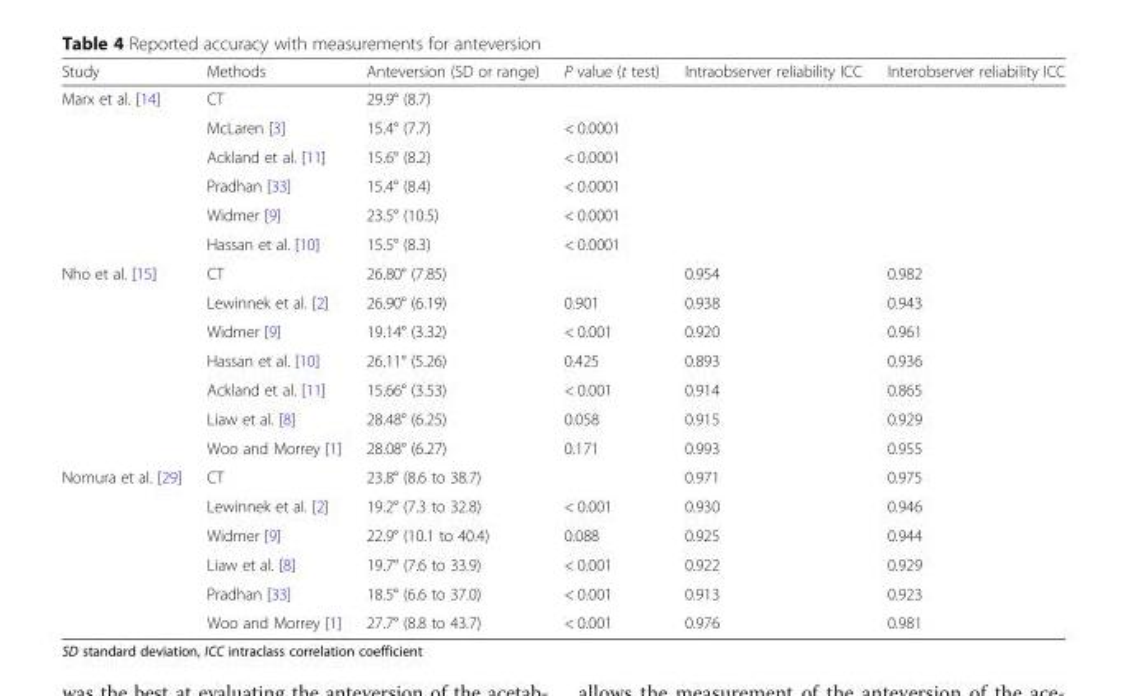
<table><thead><tr><td>Study</td><td>Methods</td><td>Anteversion (SD or range)</td><td>P value (t test)</td><td>Intraobserver reliability ICC</td><td>Interobserver reliability ICC</td></tr></thead><tbody><tr><td rowspan="6">Marx et al. [14]</td><td>CT</td><td>29.9° (8.7)</td><td></td><td rowspan="6"></td><td rowspan="6"></td></tr><tr><td>McLaren [3]</td><td>15.4° (7.7)</td><td>&lt; 0.0001</td></tr><tr><td>Ackland et al. [11]</td><td>15.6° (8.2)</td><td>&lt; 0.0001</td></tr><tr><td>Pradhan [33]</td><td>15.4° (8.4)</td><td>&lt; 0.0001</td></tr><tr><td>Widmer [9]</td><td>23.5° (10.5)</td><td>&lt; 0.0001</td></tr><tr><td>Hassan et al. [10]</td><td>15.5° (8.3)</td><td>&lt; 0.0001</td></tr><tr><td rowspan="7">Nho et al. [15]</td><td>CT</td><td>26.80° (7.85)</td><td></td><td>0.954</td><td>0.982</td></tr><tr><td>Lewinnek et al. [2]</td><td>26.90° (6.19)</td><td>0.901</td><td>0.938</td><td>0.943</td></tr><tr><td>Widmer [9]</td><td>19.14° (3.32)</td><td>&lt; 0.001</td><td>0.920</td><td>0.961</td></tr><tr><td>Hassan et al. [10]</td><td>26.11° (5.26)</td><td>0.425</td><td>0.893</td><td>0.936</td></tr><tr><td>Ackland et al. [11]</td><td>15.66° (3.53)</td><td>&lt; 0.001</td><td>0.914</td><td>0.865</td></tr><tr><td>Liaw et al. [8]</td><td>28.48° (6.25)</td><td>0.058</td><td>0.915</td><td>0.929</td></tr><tr><td>Woo and Morrey [1]</td><td>28.08° (6.27)</td><td>0.171</td><td>0.993</td><td>0.955</td></tr><tr><td rowspan="6">Nomura et al. [29]</td><td>CT</td><td>23.8° (8.6 to 38.7)</td><td></td><td>0.971</td><td>0.975</td></tr><tr><td>Lewinnek et al. [2]</td><td>19.2° (7.3 to 32.8)</td><td>&lt; 0.001</td><td>0.930</td><td>0.946</td></tr><tr><td>Widmer [9]</td><td>22.9° (10.1 to 40.4)</td><td>0.088</td><td>0.925</td><td>0.944</td></tr><tr><td>Liaw et al. [8]</td><td>19.7° (7.6 to 33.9)</td><td>&lt; 0.001</td><td>0.922</td><td>0.929</td></tr><tr><td>Pradhan [33]</td><td>18.5° (6.6 to 37.0)</td><td>&lt; 0.001</td><td>0.913</td><td>0.923</td></tr><tr><td>Woo and Morrey [1]</td><td>27.7° (8.8 to 43.7)</td><td>&lt; 0.001</td><td>0.976</td><td>0.981</td></tr></tbody></table>